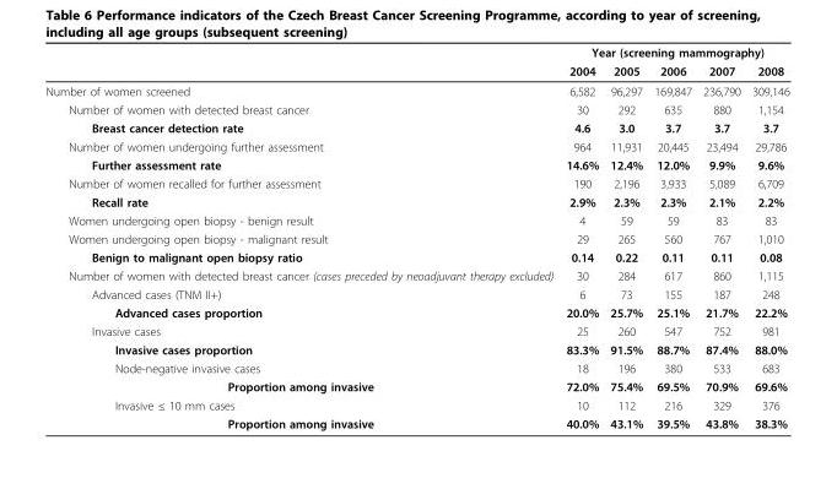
<table><thead><tr><td rowspan="2"></td><td colspan="5">Year (screening mammography)</td></tr><tr><td>2004</td><td>2005</td><td>2006</td><td>2007</td><td>2008</td></tr></thead><tbody><tr><td>Number of women screened</td><td>6,582</td><td>96,297</td><td>169,847</td><td>236,790</td><td>309,146</td></tr><tr><td>Number of women with detected breast cancer</td><td>30</td><td>292</td><td>635</td><td>880</td><td>1,154</td></tr><tr><td>Breast cancer detection rate</td><td>4.6</td><td>3.0</td><td>3.7</td><td>3.7</td><td>3.7</td></tr><tr><td>Number of women undergoing further assessment</td><td>964</td><td>11,931</td><td>20,445</td><td>23,494</td><td>29,786</td></tr><tr><td>Further assessment rate</td><td>14.6%</td><td>12.4%</td><td>12.0%</td><td>9.9%</td><td>9.6%</td></tr><tr><td>Number of women recalled for further assessment</td><td>190</td><td>2,196</td><td>3,933</td><td>5,089</td><td>6,709</td></tr><tr><td>Recall rate</td><td>2.9%</td><td>2.3%</td><td>2.3%</td><td>2.1%</td><td>2.2%</td></tr><tr><td>Women undergoing open biopsy - benign result</td><td>4</td><td>59</td><td>59</td><td>83</td><td>83</td></tr><tr><td>Women undergoing open biopsy - malignant result</td><td>29</td><td>265</td><td>560</td><td>767</td><td>1,010</td></tr><tr><td>Benign to malignant open biopsy ratio</td><td>0.14</td><td>0.22</td><td>0.11</td><td>0.11</td><td>0.08</td></tr><tr><td>Number of women with detected breast cancer (cases preceded by neoadjuvant therapy excluded)</td><td>30</td><td>284</td><td>617</td><td>860</td><td>1,115</td></tr><tr><td>Advanced cases (TNM II+)</td><td>6</td><td>73</td><td>155</td><td>187</td><td>248</td></tr><tr><td>Advanced cases proportion</td><td>20.0%</td><td>25.7%</td><td>25.1%</td><td>21.7%</td><td>22.2%</td></tr><tr><td>Invasive cases</td><td>25</td><td>260</td><td>547</td><td>752</td><td>981</td></tr><tr><td>Invasive cases proportion</td><td>83.3%</td><td>91.5%</td><td>88.7%</td><td>87.4%</td><td>88.0%</td></tr><tr><td>Node-negative invasive cases</td><td>18</td><td>196</td><td>380</td><td>533</td><td>683</td></tr><tr><td>Proportion among invasive</td><td>72.0%</td><td>75.4%</td><td>69.5%</td><td>70.9%</td><td>69.6%</td></tr><tr><td>Invasive ≤ 10 mm cases</td><td>10</td><td>112</td><td>216</td><td>329</td><td>376</td></tr><tr><td>Proportion among invasive</td><td>40.0%</td><td>43.1%</td><td>39.5%</td><td>43.8%</td><td>38.3%</td></tr></tbody></table>